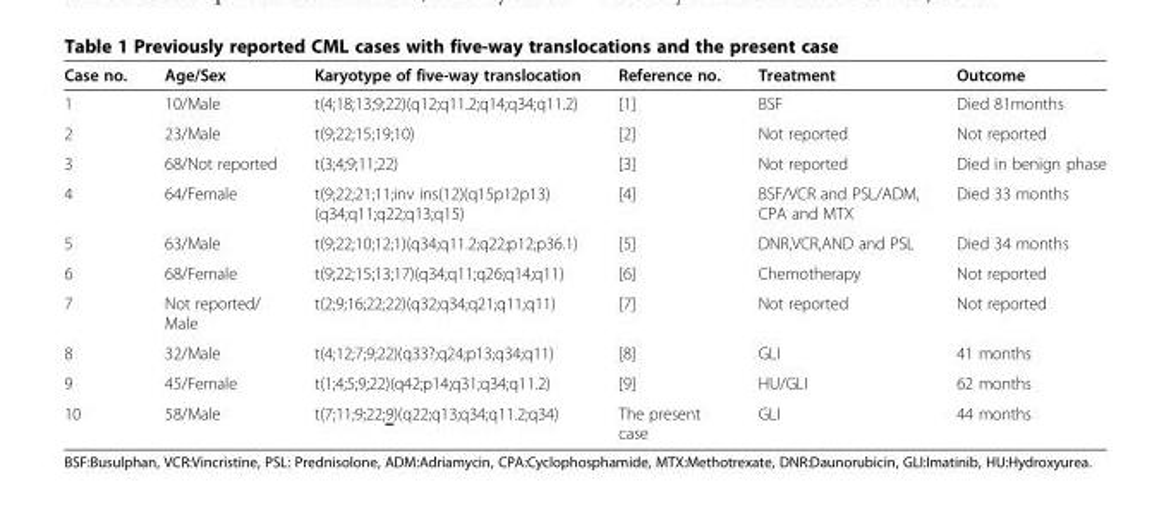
<table><thead><tr><td>Case no.</td><td>Age/Sex</td><td>Karyotype of five-way translocation</td><td>Reference no.</td><td>Treatment</td><td>Outcome</td></tr></thead><tbody><tr><td>1</td><td>10/Male</td><td>t(4;18;13;9;22)(q12;q11.2;q14;q34;q11.2)</td><td>[1]</td><td>BSF</td><td>Died 81months</td></tr><tr><td>2</td><td>23/Male</td><td>t(9;22;15;19;10)</td><td>[2]</td><td>Not reported</td><td>Not reported</td></tr><tr><td>3</td><td>68/Not reported</td><td>t(3;4;9;11;22)</td><td>[3]</td><td>Not reported</td><td>Died in benign phase</td></tr><tr><td>4</td><td>64/Female</td><td>t(9;22;21;11;inv ins(12)(q15p12p13) (q34;q11;q22;q13;q15)</td><td>[4]</td><td>BSF/VCR and PSL/ADM, CPA and MTX</td><td>Died 33 months</td></tr><tr><td>5</td><td>63/Male</td><td>t(9;22;10;12;1)(q34;q11.2;q22;p12;p36.1)</td><td>[5]</td><td>DNR,VCR,AND and PSL</td><td>Died 34 months</td></tr><tr><td>6</td><td>68/Female</td><td>t(9;22;15;13;17)(q34;q11;q26;q14;q11)</td><td>[6]</td><td>Chemotherapy</td><td>Not reported</td></tr><tr><td>7</td><td>Not reported/ Male</td><td>t(2;9;16;22;22)(q32;q34;q21;q11;q11)</td><td>[7]</td><td>Not reported</td><td>Not reported</td></tr><tr><td>8</td><td>32/Male</td><td>t(4;12;7;9;22)(q33?;q24;p13;q34;q11)</td><td>[8]</td><td>GLI</td><td>41 months</td></tr><tr><td>9</td><td>45/Female</td><td>t(1;4;5;9;22)(q42;p14;q31;q34;q11.2)</td><td>[9]</td><td>HU/GLI</td><td>62 months</td></tr><tr><td>10</td><td>58/Male</td><td>t(7;11;9;22;9)(q22;q13;q34;q11.2;q34)</td><td>The present case</td><td>GLI</td><td>44 months</td></tr></tbody></table>